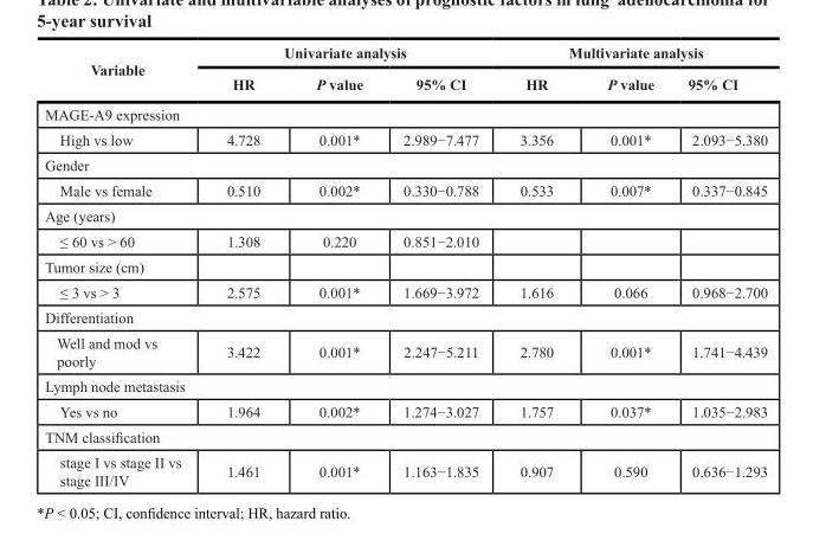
<table><thead><tr><td rowspan="2">Variable</td><td colspan="3">Univariate analysis</td><td colspan="3">Multivariate analysis</td></tr><tr><td>HR</td><td>P value</td><td>95% CI</td><td>HR</td><td>P value</td><td>95% CI</td></tr></thead><tbody><tr><td colspan="7">MAGE-A9 expression</td></tr><tr><td>High vs low</td><td>4.728</td><td>0.001*</td><td>2.989−7.477</td><td>3.356</td><td>0.001*</td><td>2.093−5.380</td></tr><tr><td colspan="7">Gender</td></tr><tr><td>Male vs female</td><td>0.510</td><td>0.002*</td><td>0.330−0.788</td><td>0.533</td><td>0.007*</td><td>0.337−0.845</td></tr><tr><td colspan="7">Age (years)</td></tr><tr><td>≤ 60 vs &gt; 60</td><td>1.308</td><td>0.220</td><td>0.851−2.010</td><td></td><td></td><td></td></tr><tr><td colspan="7">Tumor size (cm)</td></tr><tr><td>≤ 3 vs &gt; 3</td><td>2.575</td><td>0.001*</td><td>1.669−3.972</td><td>1.616</td><td>0.066</td><td>0.968−2.700</td></tr><tr><td colspan="7">Differentiation</td></tr><tr><td>Well and mod vs poorly</td><td>3.422</td><td>0.001*</td><td>2.247−5.211</td><td>2.780</td><td>0.001*</td><td>1.741−4.439</td></tr><tr><td colspan="7">Lymph node metastasis</td></tr><tr><td>Yes vs no</td><td>1.964</td><td>0.002*</td><td>1.274−3.027</td><td>1.757</td><td>0.037*</td><td>1.035−2.983</td></tr><tr><td colspan="7">TNM classification</td></tr><tr><td>stage I vs stage II vs stage III/IV</td><td>1.461</td><td>0.001*</td><td>1.163−1.835</td><td>0.907</td><td>0.590</td><td>0.636−1.293</td></tr></tbody></table>